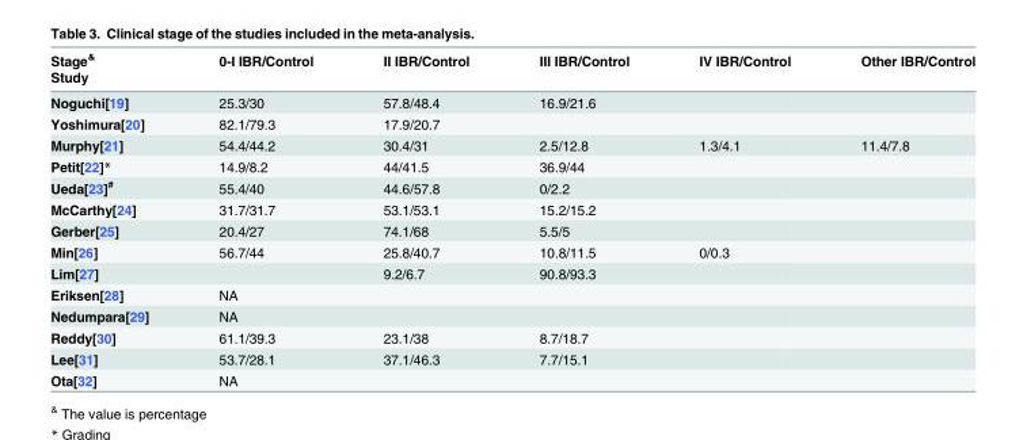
<table><thead><tr><td rowspan="2">Stage<sup>&amp;</sup> Study</td><td rowspan="2">0-I IBR/Control</td><td rowspan="2">II IBR/Control</td><td rowspan="2">III IBR/Control</td><td rowspan="2">IV IBR/Control</td><td rowspan="2">Other IBR/Control</td></tr><tr></tr></thead><tbody><tr><td>Noguchi[19]</td><td>25.3/30</td><td>57.8/48.4</td><td>16.9/21.6</td><td></td><td></td></tr><tr><td>Yoshimura[20]</td><td>82.1/79.3</td><td>17.9/20.7</td><td></td><td></td><td></td></tr><tr><td>Murphy[21]</td><td>54.4/44.2</td><td>30.4/31</td><td>2.5/12.8</td><td>1.3/4.1</td><td>11.4/7.8</td></tr><tr><td>Petit[22]*</td><td>14.9/8.2</td><td>44/41.5</td><td>36.9/44</td><td></td><td></td></tr><tr><td>Ueda[23]<sup>#</sup></td><td>55.4/40</td><td>44.6/57.8</td><td>0/2.2</td><td></td><td></td></tr><tr><td>McCarthy[24]</td><td>31.7/31.7</td><td>53.1/53.1</td><td>15.2/15.2</td><td></td><td></td></tr><tr><td>Gerber[25]</td><td>20.4/27</td><td>74.1/68</td><td>5.5/5</td><td></td><td></td></tr><tr><td>Min[26]</td><td>56.7/44</td><td>25.8/40.7</td><td>10.8/11.5</td><td>0/0.3</td><td></td></tr><tr><td>Lim[27]</td><td></td><td>9.2/6.7</td><td>90.8/93.3</td><td></td><td></td></tr><tr><td>Eriksen[28]</td><td>NA</td><td></td><td></td><td></td><td></td></tr><tr><td>Nedumpara[29]</td><td>NA</td><td></td><td></td><td></td><td></td></tr><tr><td>Reddy[30]</td><td>61.1/39.3</td><td>23.1/38</td><td>8.7/18.7</td><td></td><td></td></tr><tr><td>Lee[31]</td><td>53.7/28.1</td><td>37.1/46.3</td><td>7.7/15.1</td><td></td><td></td></tr><tr><td>Ota[32]</td><td>NA</td><td></td><td></td><td></td><td></td></tr></tbody></table>